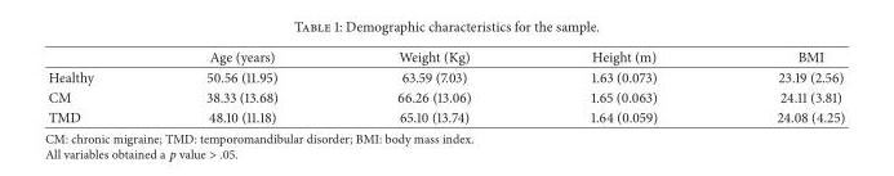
<table><thead><tr><td></td><td>Age (years)</td><td>Weight (Kg)</td><td>Height (m)</td><td>BMI</td></tr></thead><tbody><tr><td>Healthy</td><td>50.56 (11.95)</td><td>63.59 (7.03)</td><td>1.63 (0.073)</td><td>23.19 (2.56)</td></tr><tr><td>CM</td><td>38.33 (13.68)</td><td>66.26 (13.06)</td><td>1.65 (0.063)</td><td>24.11 (3.81)</td></tr><tr><td>TMD</td><td>48.10 (11.18)</td><td>65.10 (13.74)</td><td>1.64 (0.059)</td><td>24.08 (4.25)</td></tr></tbody></table>